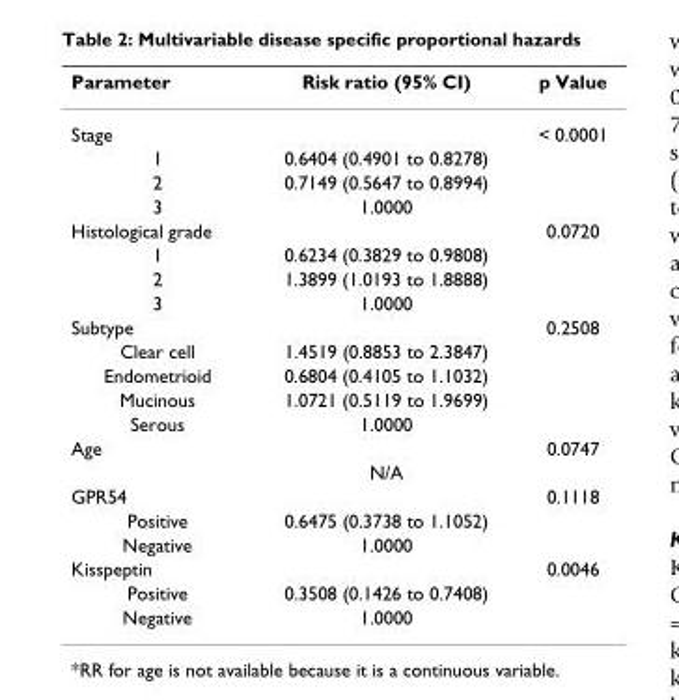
<table><thead><tr><td>Parameter</td><td>Risk ratio (95% CI)</td><td>p Value</td></tr></thead><tbody><tr><td>Stage</td><td></td><td>&lt; 0.0001</td></tr><tr><td>1</td><td>0.6404 (0.4901 to 0.8278)</td><td></td></tr><tr><td>2</td><td>0.7149 (0.5647 to 0.8994)</td><td></td></tr><tr><td>3</td><td>1.0000</td><td></td></tr><tr><td>Histological grade</td><td></td><td>0.0720</td></tr><tr><td>1</td><td>0.6234 (0.3829 to 0.9808)</td><td></td></tr><tr><td>2</td><td>1.3899 (1.0193 to 1.8888)</td><td></td></tr><tr><td>3</td><td>1.0000</td><td></td></tr><tr><td>Subtype</td><td></td><td>0.2508</td></tr><tr><td>Clear cell</td><td>1.4519 (0.8853 to 2.3847)</td><td></td></tr><tr><td>Endometrioid</td><td>0.6804 (0.4105 to 1.1032)</td><td></td></tr><tr><td>Mucinous</td><td>1.0721 (0.5119 to 1.9699)</td><td></td></tr><tr><td>Serous</td><td>1.0000</td><td></td></tr><tr><td rowspan="2">Age</td><td></td><td>0.0747</td></tr><tr><td>N/A</td><td></td></tr><tr><td>GPR54</td><td></td><td>0.1118</td></tr><tr><td>Positive</td><td>0.6475 (0.3738 to 1.1052)</td><td></td></tr><tr><td>Negative</td><td>1.0000</td><td></td></tr><tr><td>Kisspeptin</td><td></td><td>0.0046</td></tr><tr><td>Positive</td><td>0.3508 (0.1426 to 0.7408)</td><td></td></tr><tr><td>Negative</td><td>1.0000</td><td></td></tr></tbody></table>